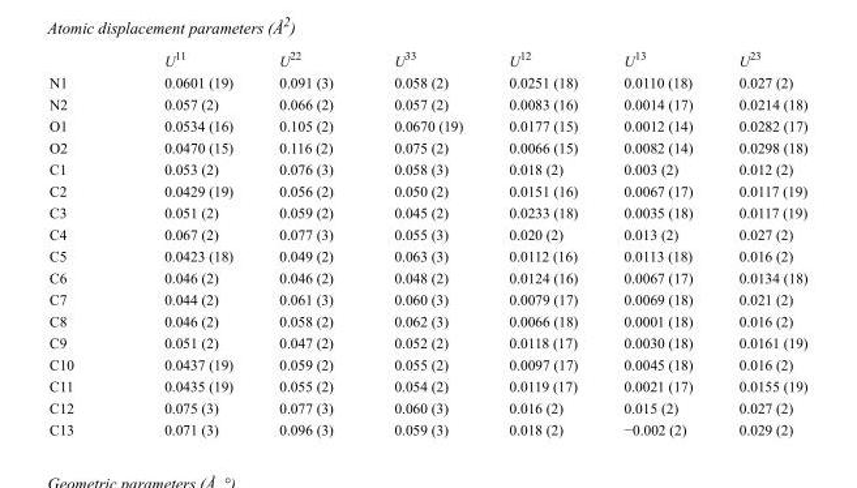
<table><thead><tr><td></td><td>U<sup>11</sup></td><td>U<sup>22</sup></td><td>U<sup>33</sup></td><td>U<sup>12</sup></td><td>U<sup>13</sup></td><td>U<sup>23</sup></td></tr></thead><tbody><tr><td>N1</td><td>0.0601 (19)</td><td>0.091 (3)</td><td>0.058 (2)</td><td>0.0251 (18)</td><td>0.0110 (18)</td><td>0.027 (2)</td></tr><tr><td>N2</td><td>0.057 (2)</td><td>0.066 (2)</td><td>0.057 (2)</td><td>0.0083 (16)</td><td>0.0014 (17)</td><td>0.0214 (18)</td></tr><tr><td>O1</td><td>0.0534 (16)</td><td>0.105 (2)</td><td>0.0670 (19)</td><td>0.0177 (15)</td><td>0.0012 (14)</td><td>0.0282 (17)</td></tr><tr><td>O2</td><td>0.0470 (15)</td><td>0.116 (2)</td><td>0.075 (2)</td><td>0.0066 (15)</td><td>0.0082 (14)</td><td>0.0298 (18)</td></tr><tr><td>C1</td><td>0.053 (2)</td><td>0.076 (3)</td><td>0.058 (3)</td><td>0.018 (2)</td><td>0.003 (2)</td><td>0.012 (2)</td></tr><tr><td>C2</td><td>0.0429 (19)</td><td>0.056 (2)</td><td>0.050 (2)</td><td>0.0151 (16)</td><td>0.0067 (17)</td><td>0.0117 (19)</td></tr><tr><td>C3</td><td>0.051 (2)</td><td>0.059 (2)</td><td>0.045 (2)</td><td>0.0233 (18)</td><td>0.0035 (18)</td><td>0.0117 (19)</td></tr><tr><td>C4</td><td>0.067 (2)</td><td>0.077 (3)</td><td>0.055 (3)</td><td>0.020 (2)</td><td>0.013 (2)</td><td>0.027 (2)</td></tr><tr><td>C5</td><td>0.0423 (18)</td><td>0.049 (2)</td><td>0.063 (3)</td><td>0.0112 (16)</td><td>0.0113 (18)</td><td>0.016 (2)</td></tr><tr><td>C6</td><td>0.046 (2)</td><td>0.046 (2)</td><td>0.048 (2)</td><td>0.0124 (16)</td><td>0.0067 (17)</td><td>0.0134 (18)</td></tr><tr><td>C7</td><td>0.044 (2)</td><td>0.061 (3)</td><td>0.060 (3)</td><td>0.0079 (17)</td><td>0.0069 (18)</td><td>0.021 (2)</td></tr><tr><td>C8</td><td>0.046 (2)</td><td>0.058 (2)</td><td>0.062 (3)</td><td>0.0066 (18)</td><td>0.0001 (18)</td><td>0.016 (2)</td></tr><tr><td>C9</td><td>0.051 (2)</td><td>0.047 (2)</td><td>0.052 (2)</td><td>0.0118 (17)</td><td>0.0030 (18)</td><td>0.0161 (19)</td></tr><tr><td>C10</td><td>0.0437 (19)</td><td>0.059 (2)</td><td>0.055 (2)</td><td>0.0097 (17)</td><td>0.0045 (18)</td><td>0.016 (2)</td></tr><tr><td>C11</td><td>0.0435 (19)</td><td>0.055 (2)</td><td>0.054 (2)</td><td>0.0119 (17)</td><td>0.0021 (17)</td><td>0.0155 (19)</td></tr><tr><td>C12</td><td>0.075 (3)</td><td>0.077 (3)</td><td>0.060 (3)</td><td>0.016 (2)</td><td>0.015 (2)</td><td>0.027 (2)</td></tr><tr><td>C13</td><td>0.071 (3)</td><td>0.096 (3)</td><td>0.059 (3)</td><td>0.018 (2)</td><td>−0.002 (2)</td><td>0.029 (2)</td></tr></tbody></table>